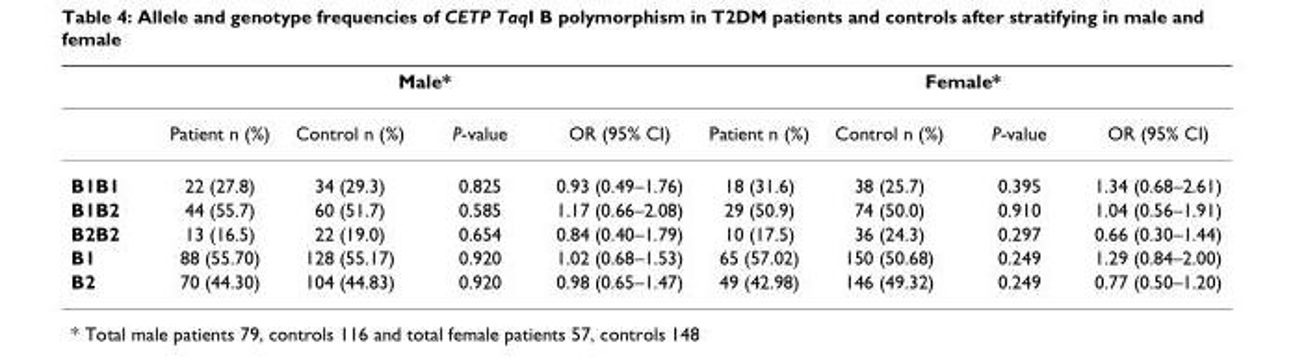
<table><thead><tr><td rowspan="2"></td><td colspan="4">Male*</td><td colspan="4">Female*</td></tr><tr><td>Patient n (%)</td><td>Control n (%)</td><td>P-value</td><td>OR (95% CI)</td><td>Patient n (%)</td><td>Control n (%)</td><td>P-value</td><td>OR (95% CI)</td></tr></thead><tbody><tr><td>B1B1</td><td>22 (27.8)</td><td>34 (29.3)</td><td>0.825</td><td>0.93 (0.49–1.76)</td><td>18 (31.6)</td><td>38 (25.7)</td><td>0.395</td><td>1.34 (0.68–2.61)</td></tr><tr><td>B1B2</td><td>44 (55.7)</td><td>60 (51.7)</td><td>0.585</td><td>1.17 (0.66–2.08)</td><td>29 (50.9)</td><td>74 (50.0)</td><td>0.910</td><td>1.04 (0.56–1.91)</td></tr><tr><td>B2B2</td><td>13 (16.5)</td><td>22 (19.0)</td><td>0.654</td><td>0.84 (0.40–1.79)</td><td>10 (17.5)</td><td>36 (24.3)</td><td>0.297</td><td>0.66 (0.30–1.44)</td></tr><tr><td>B1</td><td>88 (55.70)</td><td>128 (55.17)</td><td>0.920</td><td>1.02 (0.68–1.53)</td><td>65 (57.02)</td><td>150 (50.68)</td><td>0.249</td><td>1.29 (0.84–2.00)</td></tr><tr><td>B2</td><td>70 (44.30)</td><td>104 (44.83)</td><td>0.920</td><td>0.98 (0.65–1.47)</td><td>49 (42.98)</td><td>146 (49.32)</td><td>0.249</td><td>0.77 (0.50–1.20)</td></tr></tbody></table>